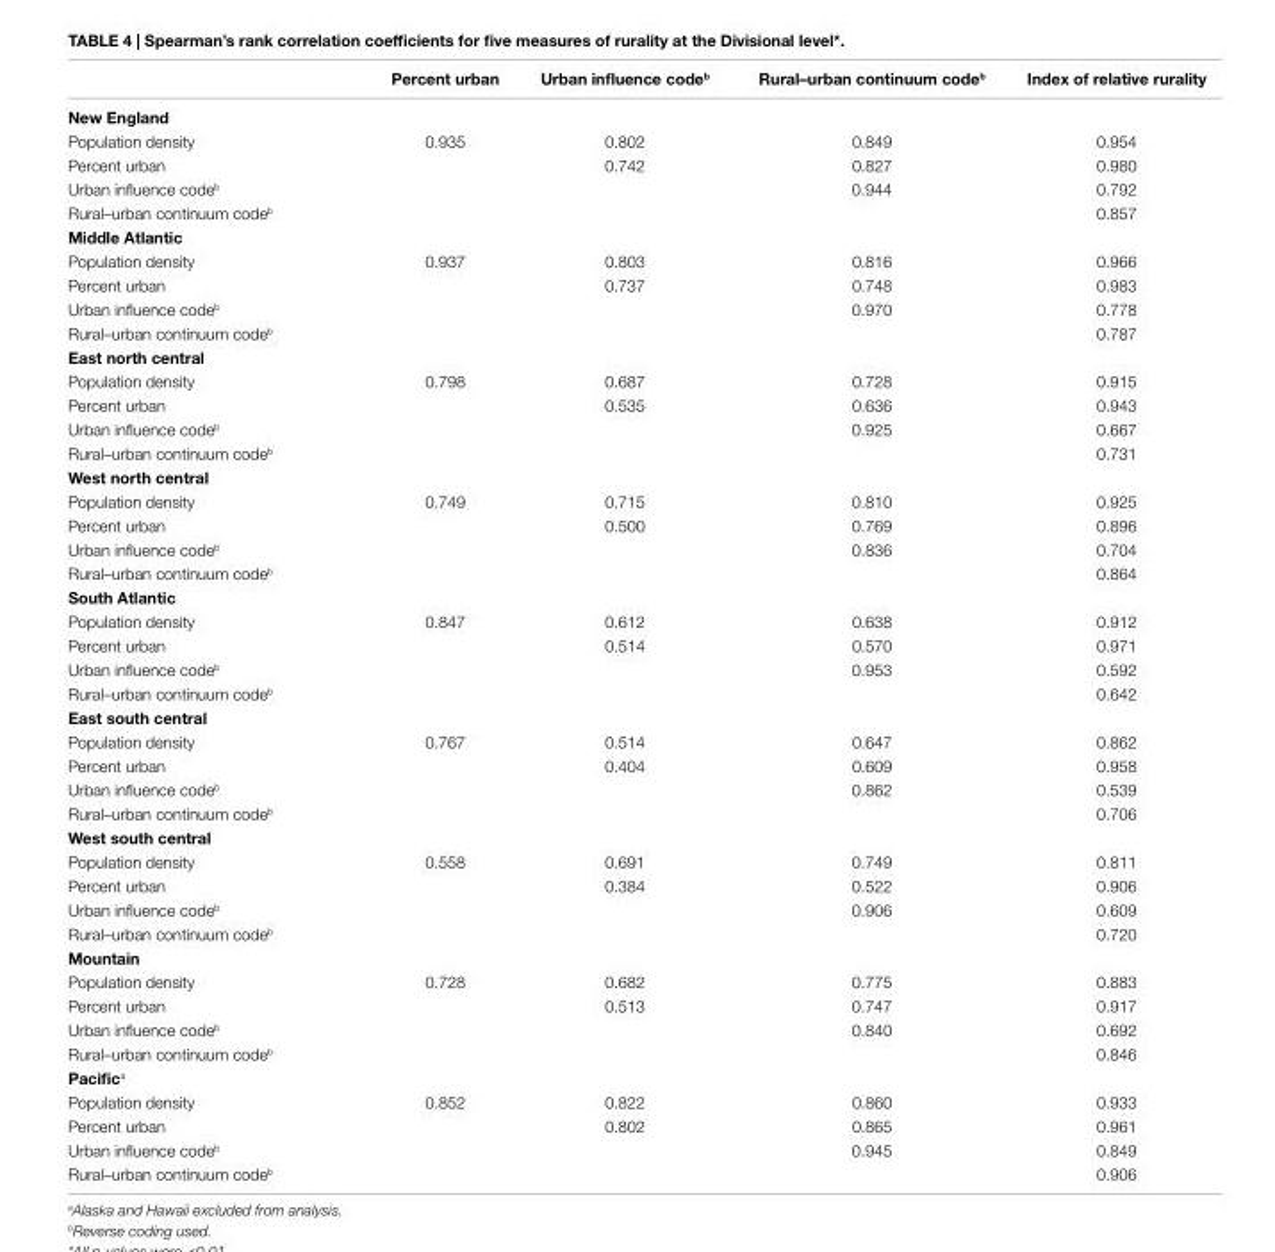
<table><thead><tr><td></td><td>Percent urban</td><td>Urban influence code<sup>b</sup></td><td>rural–urban continuum code<sup>b</sup></td><td>index of relative rurality</td></tr></thead><tbody><tr><td colspan="5">new england</td></tr><tr><td>Population density</td><td>0.935</td><td>0.802</td><td>0.849</td><td>0.954</td></tr><tr><td>Percent urban</td><td></td><td>0.742</td><td>0.827</td><td>0.980</td></tr><tr><td>Urban influence code<sup>b</sup></td><td></td><td></td><td>0.944</td><td>0.792</td></tr><tr><td>Rural–urban continuum code<sup>b</sup></td><td></td><td></td><td></td><td>0.857</td></tr><tr><td colspan="5">Middle atlantic</td></tr><tr><td>Population density</td><td>0.937</td><td>0.803</td><td>0.816</td><td>0.966</td></tr><tr><td>Percent urban</td><td></td><td>0.737</td><td>0.748</td><td>0.983</td></tr><tr><td>Urban influence code<sup>b</sup></td><td></td><td></td><td>0.970</td><td>0.778</td></tr><tr><td>Rural–urban continuum code<sup>b</sup></td><td></td><td></td><td></td><td>0.787</td></tr><tr><td colspan="5">east north central</td></tr><tr><td>Population density</td><td>0.798</td><td>0.687</td><td>0.728</td><td>0.915</td></tr><tr><td>Percent urban</td><td></td><td>0.535</td><td>0.636</td><td>0.943</td></tr><tr><td>Urban influence code<sup>b</sup></td><td></td><td></td><td>0.925</td><td>0.667</td></tr><tr><td>Rural–urban continuum code<sup>b</sup></td><td></td><td></td><td></td><td>0.731</td></tr><tr><td colspan="5">West north central</td></tr><tr><td>Population density</td><td>0.749</td><td>0.715</td><td>0.810</td><td>0.925</td></tr><tr><td>Percent urban</td><td></td><td>0.500</td><td>0.769</td><td>0.896</td></tr><tr><td>Urban influence code<sup>b</sup></td><td></td><td></td><td>0.836</td><td>0.704</td></tr><tr><td>Rural–urban continuum code<sup>b</sup></td><td></td><td></td><td></td><td>0.864</td></tr><tr><td colspan="5">south atlantic</td></tr><tr><td>Population density</td><td>0.847</td><td>0.612</td><td>0.638</td><td>0.912</td></tr><tr><td>Percent urban</td><td></td><td>0.514</td><td>0.570</td><td>0.971</td></tr><tr><td>Urban influence code<sup>b</sup></td><td></td><td></td><td>0.953</td><td>0.592</td></tr><tr><td>Rural–urban continuum code<sup>b</sup></td><td></td><td></td><td></td><td>0.642</td></tr><tr><td colspan="5">east south central</td></tr><tr><td>Population density</td><td>0.767</td><td>0.514</td><td>0.647</td><td>0.862</td></tr><tr><td>Percent urban</td><td></td><td>0.404</td><td>0.609</td><td>0.958</td></tr><tr><td>Urban influence code<sup>b</sup></td><td></td><td></td><td>0.862</td><td>0.539</td></tr><tr><td>Rural–urban continuum code<sup>b</sup></td><td></td><td></td><td></td><td>0.706</td></tr><tr><td colspan="5">West south central</td></tr><tr><td>Population density</td><td>0.558</td><td>0.691</td><td>0.749</td><td>0.811</td></tr><tr><td>Percent urban</td><td></td><td>0.384</td><td>0.522</td><td>0.906</td></tr><tr><td>Urban influence code<sup>b</sup></td><td></td><td></td><td>0.906</td><td>0.609</td></tr><tr><td>Rural–urban continuum code<sup>b</sup></td><td></td><td></td><td></td><td>0.720</td></tr><tr><td colspan="5">Mountain</td></tr><tr><td>Population density</td><td>0.728</td><td>0.682</td><td>0.775</td><td>0.883</td></tr><tr><td>Percent urban</td><td></td><td>0.513</td><td>0.747</td><td>0.917</td></tr><tr><td>Urban influence code<sup>b</sup></td><td></td><td></td><td>0.840</td><td>0.692</td></tr><tr><td>Rural–urban continuum code<sup>b</sup></td><td></td><td></td><td></td><td>0.846</td></tr><tr><td colspan="5">Pacific<sup>a</sup></td></tr><tr><td>Population density</td><td>0.852</td><td>0.822</td><td>0.860</td><td>0.933</td></tr><tr><td>Percent urban</td><td></td><td>0.802</td><td>0.865</td><td>0.961</td></tr><tr><td>Urban influence code<sup>b</sup></td><td></td><td></td><td>0.945</td><td>0.849</td></tr><tr><td>Rural–urban continuum code<sup>b</sup></td><td></td><td></td><td></td><td>0.906</td></tr></tbody></table>